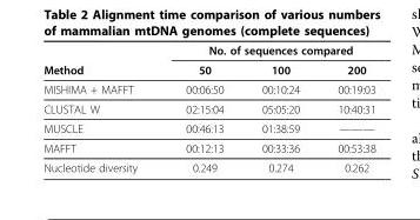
<table><thead><tr><td rowspan="2">Method</td><td colspan="3">No. of sequences compared</td></tr><tr><td>50</td><td>100</td><td>200</td></tr></thead><tbody><tr><td>MISHIMA + MAFFT</td><td>00:06:50</td><td>00:10:24</td><td>00:19:03</td></tr><tr><td>CLUSTAL W</td><td>02:15:04</td><td>05:05:20</td><td>10:40:31</td></tr><tr><td>MUSCLE</td><td>00:46:13</td><td>01:38:59</td><td>———</td></tr><tr><td>MAFFT</td><td>00:12:13</td><td>00:33:36</td><td>00:53:38</td></tr><tr><td>Nucleotide diversity</td><td>0.249</td><td>0.274</td><td>0.262</td></tr></tbody></table>